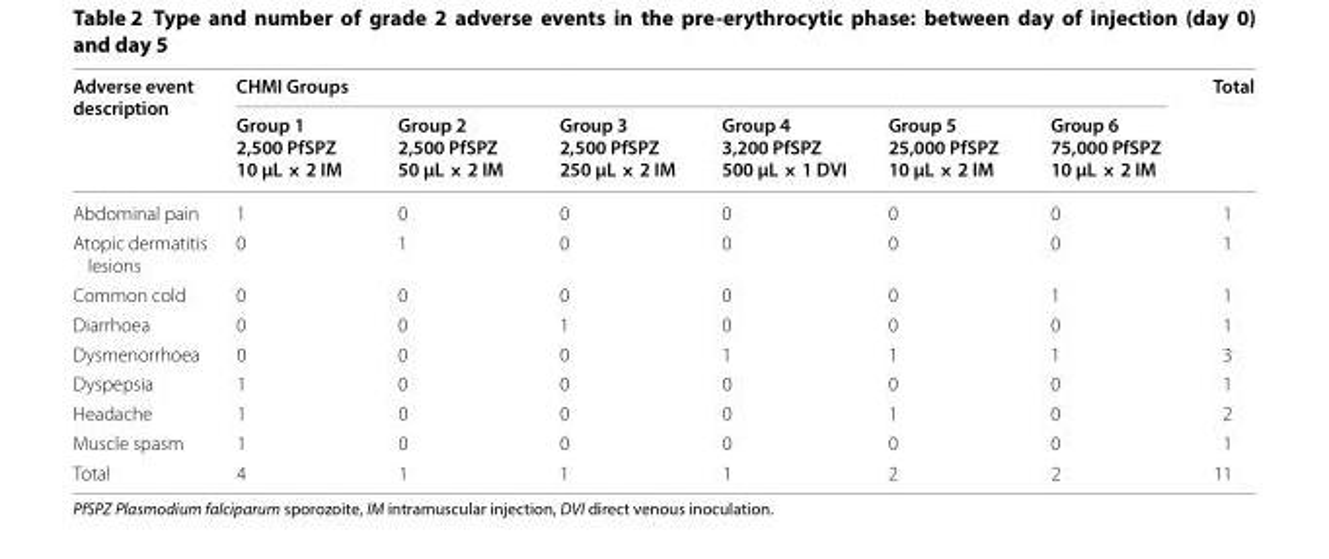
<table><thead><tr><td rowspan="2">Adverse event description</td><td colspan="6">CHMI Groups</td><td rowspan="2">Total</td></tr><tr><td>Group 1 2,500 PfSPZ 10 µL × 2 IM</td><td>Group 2 2,500 PfSPZ 50 µL × 2 IM</td><td>Group 3 2,500 PfSPZ 250 µL × 2 IM</td><td>Group 4 3,200 PfSPZ 500 µL × 1 DVI</td><td>Group 5 25,000 PfSPZ 10 µL × 2 IM</td><td>Group 6 75,000 PfSPZ 10 µL × 2 IM</td></tr></thead><tbody><tr><td>Abdominal pain</td><td>1</td><td>0</td><td>0</td><td>0</td><td>0</td><td>0</td><td>1</td></tr><tr><td>Atopic dermatitis lesions</td><td>0</td><td>1</td><td>0</td><td>0</td><td>0</td><td>0</td><td>1</td></tr><tr><td>Common cold</td><td>0</td><td>0</td><td>0</td><td>0</td><td>0</td><td>1</td><td>1</td></tr><tr><td>Diarrhoea</td><td>0</td><td>0</td><td>1</td><td>0</td><td>0</td><td>0</td><td>1</td></tr><tr><td>Dysmenorrhoea</td><td>0</td><td>0</td><td>0</td><td>1</td><td>1</td><td>1</td><td>3</td></tr><tr><td>Dyspepsia</td><td>1</td><td>0</td><td>0</td><td>0</td><td>0</td><td>0</td><td>1</td></tr><tr><td>Headache</td><td>1</td><td>0</td><td>0</td><td>0</td><td>1</td><td>0</td><td>2</td></tr><tr><td>Muscle spasm</td><td>1</td><td>0</td><td>0</td><td>0</td><td>0</td><td>0</td><td>1</td></tr><tr><td>Total</td><td>4</td><td>1</td><td>1</td><td>1</td><td>2</td><td>2</td><td>11</td></tr></tbody></table>